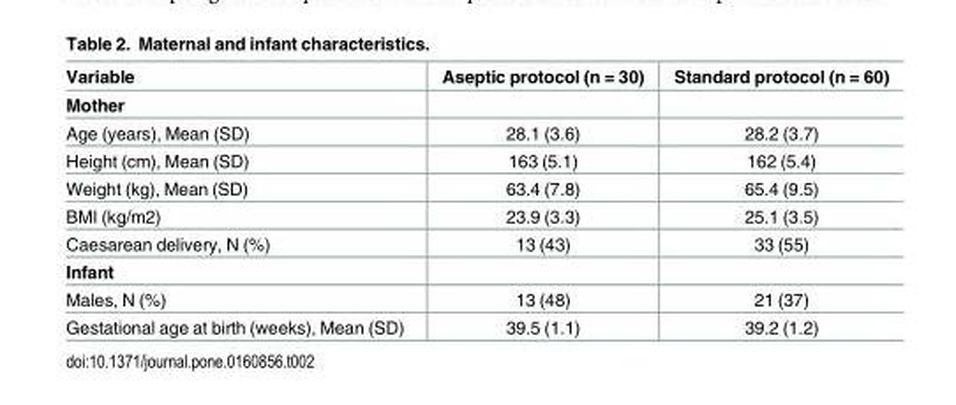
<table><thead><tr><td>Variable</td><td>Aseptic protocol (n = 30)</td><td>Standard protocol (n = 60)</td></tr></thead><tbody><tr><td colspan="3">Mother</td></tr><tr><td>Age (years), Mean (SD)</td><td>28.1 (3.6)</td><td>28.2 (3.7)</td></tr><tr><td>Height (cm), Mean (SD)</td><td>163 (5.1)</td><td>162 (5.4)</td></tr><tr><td>Weight (kg), Mean (SD)</td><td>63.4 (7.8)</td><td>65.4 (9.5)</td></tr><tr><td>BMI (kg/m2)</td><td>23.9 (3.3)</td><td>25.1 (3.5)</td></tr><tr><td>Caesarean delivery, N (%)</td><td>13 (43)</td><td>33 (55)</td></tr><tr><td colspan="3">Infant</td></tr><tr><td>Males, N (%)</td><td>13 (48)</td><td>21 (37)</td></tr><tr><td>Gestational age at birth (weeks), Mean (SD)</td><td>39.5 (1.1)</td><td>39.2 (1.2)</td></tr></tbody></table>